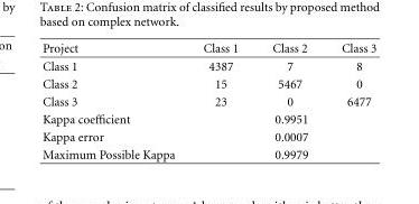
<table><thead><tr><td>Project</td><td>Class 1</td><td>Class 2</td><td>Class 3</td></tr></thead><tbody><tr><td>Class 1</td><td>4387</td><td>7</td><td>8</td></tr><tr><td>Class 2</td><td>15</td><td>5467</td><td>0</td></tr><tr><td>Class 3</td><td>23</td><td>0</td><td>6477</td></tr><tr><td>Kappa coefficient</td><td colspan="3">0.9951</td></tr><tr><td>Kappa error</td><td colspan="3">0.0007</td></tr><tr><td>Maximum Possible Kappa</td><td colspan="3">0.9979</td></tr></tbody></table>